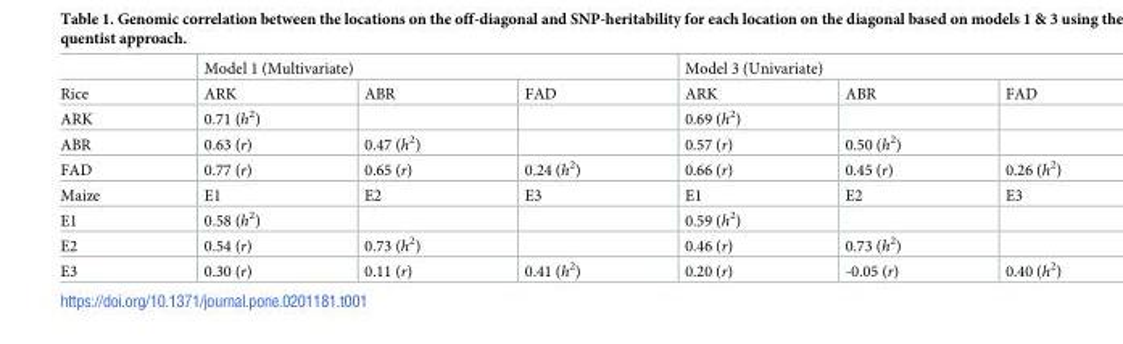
<table><thead><tr><td rowspan="2">Rice</td><td colspan="3">Model 1 (Multivariate)</td><td colspan="3">Model 3 (Univariate)</td></tr><tr><td>ARK</td><td>ABR</td><td>FAD</td><td>ARK</td><td>ABR</td><td>FAD</td></tr></thead><tbody><tr><td>ARK</td><td>0.71 (h<sup>2</sup>)</td><td></td><td></td><td>0.69 (h<sup>2</sup>)</td><td></td><td></td></tr><tr><td>ABR</td><td>0.63 (r)</td><td>0.47 (h<sup>2</sup>)</td><td></td><td>0.57 (r)</td><td>0.50 (h<sup>2</sup>)</td><td></td></tr><tr><td>FAD</td><td>0.77 (r)</td><td>0.65 (r)</td><td>0.24 (h<sup>2</sup>)</td><td>0.66 (r)</td><td>0.45 (r)</td><td>0.26 (h<sup>2</sup>)</td></tr><tr><td>Maize</td><td>E1</td><td>E2</td><td>E3</td><td>E1</td><td>E2</td><td>E3</td></tr><tr><td>E1</td><td>0.58 (h<sup>2</sup>)</td><td></td><td></td><td>0.59 (h<sup>2</sup>)</td><td></td><td></td></tr><tr><td>E2</td><td>0.54 (r)</td><td>0.73 (h<sup>2</sup>)</td><td></td><td>0.46 (r)</td><td>0.73 (h<sup>2</sup>)</td><td></td></tr><tr><td>E3</td><td>0.30 (r)</td><td>0.11 (r)</td><td>0.41 (h<sup>2</sup>)</td><td>0.20 (r)</td><td>-0.05 (r)</td><td>0.40 (h<sup>2</sup>)</td></tr></tbody></table>